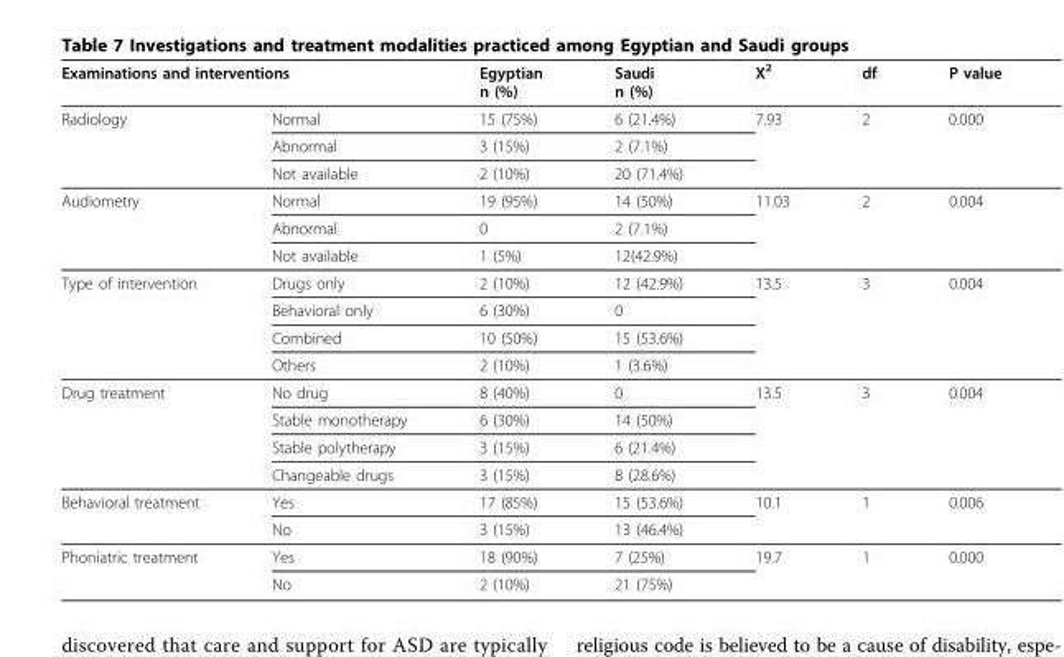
<table><thead><tr><td colspan="2">Examinations and interventions</td><td rowspan="2">Egyptian n (%) 15 (75%)</td><td rowspan="2">Saudi n (%) 6 (21.4%)</td><td rowspan="2">X2 7.93</td><td rowspan="2">df 2</td><td rowspan="2">P value 0.000</td></tr><tr><td>Radiology</td><td>Normal</td></tr></thead><tbody><tr><td></td><td>Abnormal</td><td>3 (15%)</td><td>2 (7.1%)</td><td></td><td></td><td></td></tr><tr><td></td><td>Not available</td><td>2 (10%)</td><td>20 (71.4%)</td><td></td><td></td><td></td></tr><tr><td rowspan="3">Audiometry</td><td>Normal</td><td>19 (95%)</td><td>14 (50%)</td><td>11.03</td><td>2</td><td>0.004</td></tr><tr><td>Abnormal</td><td>0</td><td>2 (7.1%)</td><td></td><td></td><td></td></tr><tr><td>Not available</td><td>1 (5%)</td><td>12(42.9%)</td><td></td><td></td><td></td></tr><tr><td rowspan="4">Type of intervention</td><td>Drugs only</td><td>2 (10%)</td><td>12 (42.9%)</td><td>13.5</td><td>3</td><td>0.004</td></tr><tr><td>Behavioral only</td><td>6 (30%)</td><td>0</td><td></td><td></td><td></td></tr><tr><td>Combined</td><td>10 (50%)</td><td>15 (53.6%)</td><td></td><td></td><td></td></tr><tr><td>Others</td><td>2 (10%)</td><td>1 (3.6%)</td><td></td><td></td><td></td></tr><tr><td rowspan="4">Drug treatment</td><td>No drug</td><td>8 (40%)</td><td>0</td><td>13.5</td><td>3</td><td>0.004</td></tr><tr><td>Stable monotherapy</td><td>6 (30%)</td><td>14 (50%)</td><td></td><td></td><td></td></tr><tr><td>Stable polytherapy</td><td>3 (15%)</td><td>6 (21.4%)</td><td></td><td></td><td></td></tr><tr><td>Changeable drugs</td><td>3 (15%)</td><td>8 (28.6%)</td><td></td><td></td><td></td></tr><tr><td rowspan="2">Behavioral treatment</td><td>Yes</td><td>17 (85%)</td><td>15 (53.6%)</td><td>10.1</td><td>1</td><td>0.006</td></tr><tr><td>No</td><td>3 (15%)</td><td>13 (46.4%)</td><td></td><td></td><td></td></tr><tr><td rowspan="2">Phoniatric treatment</td><td>Yes</td><td>18 (90%)</td><td>7 (25%)</td><td>19.7</td><td>1</td><td>0.000</td></tr><tr><td>No</td><td>2 (10%)</td><td>21 (75%)</td><td></td><td></td><td></td></tr></tbody></table>